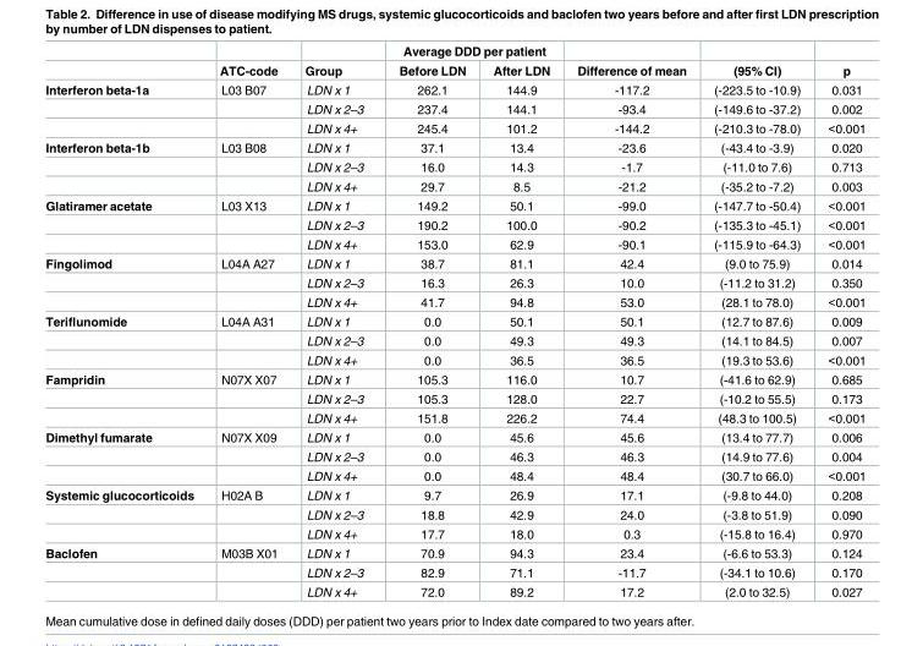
<table><thead><tr><td rowspan="2"></td><td rowspan="2">ATC-code</td><td rowspan="2">Group</td><td colspan="2">Average DDD per patient</td><td rowspan="2">Difference of mean</td><td rowspan="2">(95% CI)</td><td rowspan="2">p</td></tr><tr><td>Before LDN</td><td>After LDN</td></tr></thead><tbody><tr><td rowspan="3">Interferon beta-1a</td><td>L03 B07</td><td>LDN x 1</td><td>262.1</td><td>144.9</td><td>-117.2</td><td>(-223.5 to -10.9)</td><td>0.031</td></tr><tr><td></td><td>LDN x 2–3</td><td>237.4</td><td>144.1</td><td>-93.4</td><td>(-149.6 to -37.2)</td><td>0.002</td></tr><tr><td></td><td>LDN x 4+</td><td>245.4</td><td>101.2</td><td>-144.2</td><td>(-210.3 to -78.0)</td><td>&lt;0.001</td></tr><tr><td rowspan="3">Interferon beta-1b</td><td>L03 B08</td><td>LDN x 1</td><td>37.1</td><td>13.4</td><td>-23.6</td><td>(-43.4 to -3.9)</td><td>0.020</td></tr><tr><td></td><td>LDN x 2–3</td><td>16.0</td><td>14.3</td><td>-1.7</td><td>(-11.0 to 7.6)</td><td>0.713</td></tr><tr><td></td><td>LDN x 4+</td><td>29.7</td><td>8.5</td><td>-21.2</td><td>(-35.2 to -7.2)</td><td>0.003</td></tr><tr><td rowspan="3">Glatiramer acetate</td><td>L03 X13</td><td>LDN x 1</td><td>149.2</td><td>50.1</td><td>-99.0</td><td>(-147.7 to -50.4)</td><td>&lt;0.001</td></tr><tr><td></td><td>LDN x 2–3</td><td>190.2</td><td>100.0</td><td>-90.2</td><td>(-135.3 to -45.1)</td><td>&lt;0.001</td></tr><tr><td></td><td>LDN x 4+</td><td>153.0</td><td>62.9</td><td>-90.1</td><td>(-115.9 to -64.3)</td><td>&lt;0.001</td></tr><tr><td rowspan="3">Fingolimod</td><td>L04A A27</td><td>LDN x 1</td><td>38.7</td><td>81.1</td><td>42.4</td><td>(9.0 to 75.9)</td><td>0.014</td></tr><tr><td></td><td>LDN x 2–3</td><td>16.3</td><td>26.3</td><td>10.0</td><td>(-11.2 to 31.2)</td><td>0.350</td></tr><tr><td></td><td>LDN x 4+</td><td>41.7</td><td>94.8</td><td>53.0</td><td>(28.1 to 78.0)</td><td>&lt;0.001</td></tr><tr><td rowspan="3">Teriflunomide</td><td>L04A A31</td><td>LDN x 1</td><td>0.0</td><td>50.1</td><td>50.1</td><td>(12.7 to 87.6)</td><td>0.009</td></tr><tr><td></td><td>LDN x 2–3</td><td>0.0</td><td>49.3</td><td>49.3</td><td>(14.1 to 84.5)</td><td>0.007</td></tr><tr><td></td><td>LDN x 4+</td><td>0.0</td><td>36.5</td><td>36.5</td><td>(19.3 to 53.6)</td><td>&lt;0.001</td></tr><tr><td rowspan="3">Fampridin</td><td>N07X X07</td><td>LDN x 1</td><td>105.3</td><td>116.0</td><td>10.7</td><td>(-41.6 to 62.9)</td><td>0.685</td></tr><tr><td></td><td>LDN x 2–3</td><td>105.3</td><td>128.0</td><td>22.7</td><td>(-10.2 to 55.5)</td><td>0.173</td></tr><tr><td></td><td>LDN x 4+</td><td>151.8</td><td>226.2</td><td>74.4</td><td>(48.3 to 100.5)</td><td>&lt;0.001</td></tr><tr><td rowspan="3">Dimethyl fumarate</td><td>N07X X09</td><td>LDN x 1</td><td>0.0</td><td>45.6</td><td>45.6</td><td>(13.4 to 77.7)</td><td>0.006</td></tr><tr><td></td><td>LDN x 2–3</td><td>0.0</td><td>46.3</td><td>46.3</td><td>(14.9 to 77.6)</td><td>0.004</td></tr><tr><td></td><td>LDN x 4+</td><td>0.0</td><td>48.4</td><td>48.4</td><td>(30.7 to 66.0)</td><td>&lt;0.001</td></tr><tr><td rowspan="3">Systemic glucocorticoids</td><td>H02A B</td><td>LDN x 1</td><td>9.7</td><td>26.9</td><td>17.1</td><td>(-9.8 to 44.0)</td><td>0.208</td></tr><tr><td></td><td>LDN x 2–3</td><td>18.8</td><td>42.9</td><td>24.0</td><td>(-3.8 to 51.9)</td><td>0.090</td></tr><tr><td></td><td>LDN x 4+</td><td>17.7</td><td>18.0</td><td>0.3</td><td>(-15.8 to 16.4)</td><td>0.970</td></tr><tr><td rowspan="3">Baclofen</td><td>M03B X01</td><td>LDN x 1</td><td>70.9</td><td>94.3</td><td>23.4</td><td>(-6.6 to 53.3)</td><td>0.124</td></tr><tr><td></td><td>LDN x 2–3</td><td>82.9</td><td>71.1</td><td>-11.7</td><td>(-34.1 to 10.6)</td><td>0.170</td></tr><tr><td></td><td>LDN x 4+</td><td>72.0</td><td>89.2</td><td>17.2</td><td>(2.0 to 32.5)</td><td>0.027</td></tr></tbody></table>